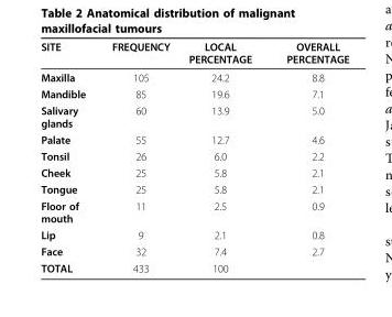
<table><thead><tr><td>SITE</td><td>FREQUENCY</td><td>LOCAL PERCENTAGE</td><td>OVERALL PERCENTAGE</td></tr></thead><tbody><tr><td>Maxilla</td><td>105</td><td>24.2</td><td>8.8</td></tr><tr><td>Mandible</td><td>85</td><td>19.6</td><td>7.1</td></tr><tr><td>Salivary glands</td><td>60</td><td>13.9</td><td>5.0</td></tr><tr><td>Palate</td><td>55</td><td>12.7</td><td>4.6</td></tr><tr><td>Tonsil</td><td>26</td><td>6.0</td><td>2.2</td></tr><tr><td>Cheek</td><td>25</td><td>5.8</td><td>2.1</td></tr><tr><td>Tongue</td><td>25</td><td>5.8</td><td>2.1</td></tr><tr><td>Floor of mouth</td><td>11</td><td>2.5</td><td>0.9</td></tr><tr><td>Lip</td><td>9</td><td>2.1</td><td>0.8</td></tr><tr><td>Face</td><td>32</td><td>7.4</td><td>2.7</td></tr><tr><td>TOTAL</td><td>433</td><td>100</td><td></td></tr></tbody></table>